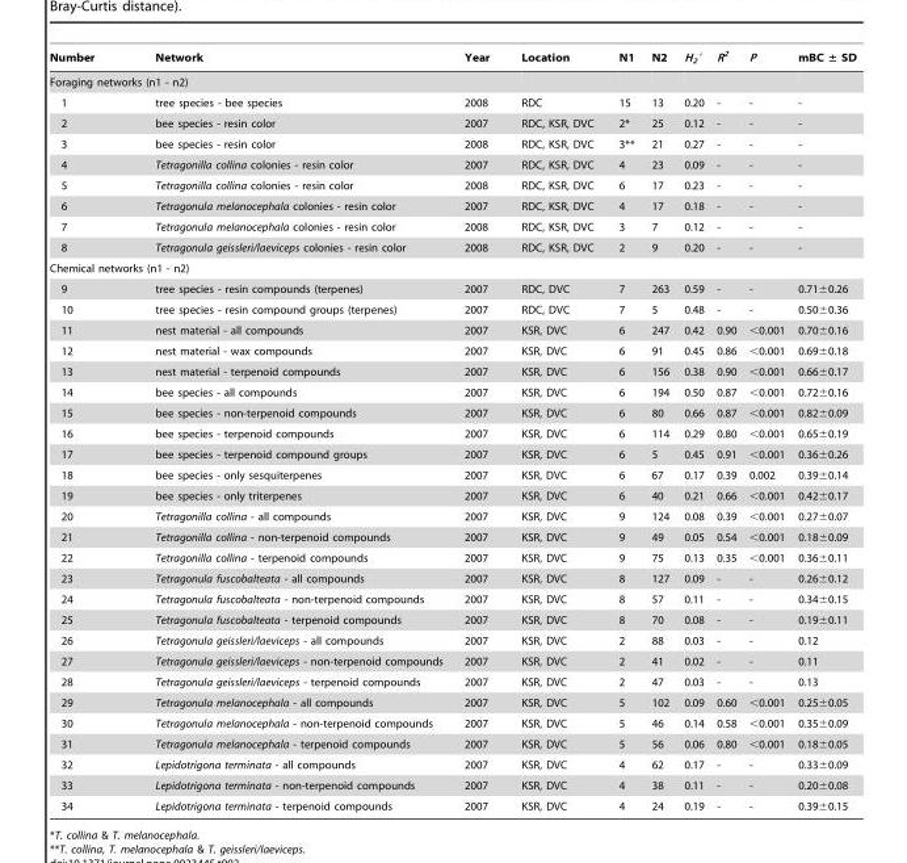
<table><thead><tr><td>Number</td><td>Network</td><td>Year</td><td>Location</td><td>N1</td><td>N2</td><td>H<sub>2</sub>′</td><td>R<sup>2</sup></td><td>P</td><td>mBC ± SD</td></tr></thead><tbody><tr><td colspan="10">Foraging networks (n1 - n2)</td></tr><tr><td>1</td><td>tree species - bee species</td><td>2008</td><td>RDC</td><td>15</td><td>13</td><td>0.20</td><td>-</td><td>-</td><td>-</td></tr><tr><td>2</td><td>bee species - resin color</td><td>2007</td><td>RDC, KSR, DVC</td><td>2*</td><td>25</td><td>0.12</td><td>-</td><td>-</td><td>-</td></tr><tr><td>3</td><td>bee species - resin color</td><td>2008</td><td>RDC, KSR, DVC</td><td>3**</td><td>21</td><td>0.27</td><td>-</td><td>-</td><td>-</td></tr><tr><td>4</td><td>Tetragonilla collina colonies - resin color</td><td>2007</td><td>RDC, KSR, DVC</td><td>4</td><td>23</td><td>0.09</td><td>-</td><td>-</td><td>-</td></tr><tr><td>5</td><td>Tetragonilla collina colonies - resin color</td><td>2008</td><td>RDC, KSR, DVC</td><td>6</td><td>17</td><td>0.23</td><td>-</td><td>-</td><td>-</td></tr><tr><td>6</td><td>Tetragonula melanocephala colonies - resin color</td><td>2007</td><td>RDC, KSR, DVC</td><td>4</td><td>17</td><td>0.18</td><td>-</td><td>-</td><td>-</td></tr><tr><td>7</td><td>Tetragonula melanocephala colonies - resin color</td><td>2008</td><td>RDC, KSR, DVC</td><td>3</td><td>7</td><td>0.12</td><td>-</td><td>-</td><td>-</td></tr><tr><td>8</td><td>Tetragonula geissleri/laeviceps colonies - resin color</td><td>2008</td><td>RDC, KSR, DVC</td><td>2</td><td>9</td><td>0.20</td><td>-</td><td>-</td><td>-</td></tr><tr><td colspan="10">Chemical networks (n1 - n2)</td></tr><tr><td>9</td><td>tree species - resin compounds (terpenes)</td><td>2007</td><td>RDC, DVC</td><td>7</td><td>263</td><td>0.59</td><td>-</td><td>-</td><td>0.71±0.26</td></tr><tr><td>10</td><td>tree species - resin compound groups (terpenes)</td><td>2007</td><td>RDC, DVC</td><td>7</td><td>5</td><td>0.48</td><td>-</td><td>-</td><td>0.50±0.36</td></tr><tr><td>11</td><td>nest material - all compounds</td><td>2007</td><td>KSR, DVC</td><td>6</td><td>247</td><td>0.42</td><td>0.90</td><td>&lt;0.001</td><td>0.70±0.16</td></tr><tr><td>12</td><td>nest material - wax compounds</td><td>2007</td><td>KSR, DVC</td><td>6</td><td>91</td><td>0.45</td><td>0.86</td><td>&lt;0.001</td><td>0.69±0.18</td></tr><tr><td>13</td><td>nest material - terpenoid compounds</td><td>2007</td><td>KSR, DVC</td><td>6</td><td>156</td><td>0.38</td><td>0.90</td><td>&lt;0.001</td><td>0.66±0.17</td></tr><tr><td>14</td><td>bee species - all compounds</td><td>2007</td><td>KSR, DVC</td><td>6</td><td>194</td><td>0.50</td><td>0.87</td><td>&lt;0.001</td><td>0.72±0.16</td></tr><tr><td>15</td><td>bee species - non-terpenoid compounds</td><td>2007</td><td>KSR, DVC</td><td>6</td><td>80</td><td>0.66</td><td>0.87</td><td>&lt;0.001</td><td>0.82±0.09</td></tr><tr><td>16</td><td>bee species - terpenoid compounds</td><td>2007</td><td>KSR, DVC</td><td>6</td><td>114</td><td>0.29</td><td>0.80</td><td>&lt;0.001</td><td>0.65±0.19</td></tr><tr><td>17</td><td>bee species - terpenoid compound groups</td><td>2007</td><td>KSR, DVC</td><td>6</td><td>5</td><td>0.45</td><td>0.91</td><td>&lt;0.001</td><td>0.36±0.26</td></tr><tr><td>18</td><td>bee species - only sesquiterpenes</td><td>2007</td><td>KSR, DVC</td><td>6</td><td>67</td><td>0.17</td><td>0.39</td><td>0.002</td><td>0.39±0.14</td></tr><tr><td>19</td><td>bee species - only triterpenes</td><td>2007</td><td>KSR, DVC</td><td>6</td><td>40</td><td>0.21</td><td>0.66</td><td>&lt;0.001</td><td>0.42±0.17</td></tr><tr><td>20</td><td>Tetragonilla collina - all compounds</td><td>2007</td><td>KSR, DVC</td><td>9</td><td>124</td><td>0.08</td><td>0.39</td><td>&lt;0.001</td><td>0.27±0.07</td></tr><tr><td>21</td><td>Tetragonilla collina - non-terpenoid compounds</td><td>2007</td><td>KSR, DVC</td><td>9</td><td>49</td><td>0.05</td><td>0.54</td><td>&lt;0.001</td><td>0.18±0.09</td></tr><tr><td>22</td><td>Tetragonilla collina - terpenoid compounds</td><td>2007</td><td>KSR, DVC</td><td>9</td><td>75</td><td>0.13</td><td>0.35</td><td>&lt;0.001</td><td>0.36±0.11</td></tr><tr><td>23</td><td>Tetragonula fuscobalteata - all compounds</td><td>2007</td><td>KSR, DVC</td><td>8</td><td>127</td><td>0.09</td><td>-</td><td>-</td><td>0.26±0.12</td></tr><tr><td>24</td><td>Tetragonula fuscobalteata - non-terpenoid compounds</td><td>2007</td><td>KSR, DVC</td><td>8</td><td>57</td><td>0.11</td><td>-</td><td>-</td><td>0.34±0.15</td></tr><tr><td>25</td><td>Tetragonula fuscobalteata - terpenoid compounds</td><td>2007</td><td>KSR, DVC</td><td>8</td><td>70</td><td>0.08</td><td>-</td><td>-</td><td>0.19±0.11</td></tr><tr><td>26</td><td>Tetragonula geissleri/laeviceps - all compounds</td><td>2007</td><td>KSR, DVC</td><td>2</td><td>88</td><td>0.03</td><td>-</td><td>-</td><td>0.12</td></tr><tr><td>27</td><td>Tetragonula geissleri/laeviceps - non-terpenoid compounds</td><td>2007</td><td>KSR, DVC</td><td>2</td><td>41</td><td>0.02</td><td>-</td><td>-</td><td>0.11</td></tr><tr><td>28</td><td>Tetragonula geissleri/laeviceps - terpenoid compounds</td><td>2007</td><td>KSR, DVC</td><td>2</td><td>47</td><td>0.03</td><td>-</td><td>-</td><td>0.13</td></tr><tr><td>29</td><td>Tetragonula melanocephala - all compounds</td><td>2007</td><td>KSR, DVC</td><td>5</td><td>102</td><td>0.09</td><td>0.60</td><td>&lt;0.001</td><td>0.25±0.05</td></tr><tr><td>30</td><td>Tetragonula melanocephala - non-terpenoid compounds</td><td>2007</td><td>KSR, DVC</td><td>5</td><td>46</td><td>0.14</td><td>0.58</td><td>&lt;0.001</td><td>0.35±0.09</td></tr><tr><td>31</td><td>Tetragonula melanocephala - terpenoid compounds</td><td>2007</td><td>KSR, DVC</td><td>5</td><td>56</td><td>0.06</td><td>0.80</td><td>&lt;0.001</td><td>0.18±0.05</td></tr><tr><td>32</td><td>Lepidotrigona terminata - all compounds</td><td>2007</td><td>KSR, DVC</td><td>4</td><td>62</td><td>0.17</td><td>-</td><td>-</td><td>0.33±0.09</td></tr><tr><td>33</td><td>Lepidotrigona terminata - non-terpenoid compounds</td><td>2007</td><td>KSR, DVC</td><td>4</td><td>38</td><td>0.11</td><td>-</td><td>-</td><td>0.20±0.08</td></tr><tr><td>34</td><td>Lepidotrigona terminata - terpenoid compounds</td><td>2007</td><td>KSR, DVC</td><td>4</td><td>24</td><td>0.19</td><td>-</td><td>-</td><td>0.39±0.15</td></tr></tbody></table>